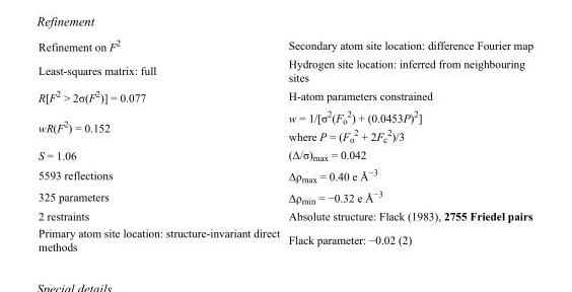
<table><tbody><tr><td>Refinement on F<sup>2</sup></td><td>Secondary atom site location: difference Fourier map</td></tr><tr><td>Least-squares matrix: full</td><td>Hydrogen site location: inferred from neighbouring sites</td></tr><tr><td>R[F<sup>2</sup> &gt; 2σ(F<sup>2</sup>)] = 0.077</td><td>H-atom parameters constrained</td></tr><tr><td>wR(F<sup>2</sup>) = 0.152</td><td>w = 1/[σ<sup>2</sup>(F<sub>o</sub> <sup>2</sup>) + (0.0453P)<sup>2</sup>] where P = (F<sub>o</sub> <sup>2</sup> + 2F<sub>c</sub> <sup>2</sup>)/3</td></tr><tr><td>S = 1.06</td><td>(Δ/σ)<sub>max</sub> = 0.042</td></tr><tr><td>5593 reflections</td><td>Δρ<sub>max</sub> = 0.40 e Å<sup>−3</sup></td></tr><tr><td>325 parameters</td><td>Δρ<sub>min</sub> = −0.32 e Å<sup>−3</sup></td></tr><tr><td>2 restraints</td><td>Absolute structure: Flack (1983), 2755 Friedel pairs</td></tr><tr><td>Primary atom site location: structure-invariant direct methods</td><td>Flack parameter: −0.02 (2)</td></tr></tbody></table>